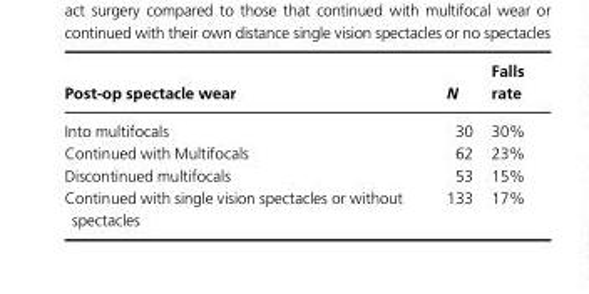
<table><thead><tr><td>Post-op spectacle wear</td><td>N</td><td>Falls rate</td></tr></thead><tbody><tr><td>Into multifocals</td><td>30</td><td>30%</td></tr><tr><td>Continued with Multifocals</td><td>62</td><td>23%</td></tr><tr><td>Discontinued multifocals</td><td>53</td><td>15%</td></tr><tr><td>Continued with single vision spectacles or without spectacles</td><td>133</td><td>17%</td></tr></tbody></table>